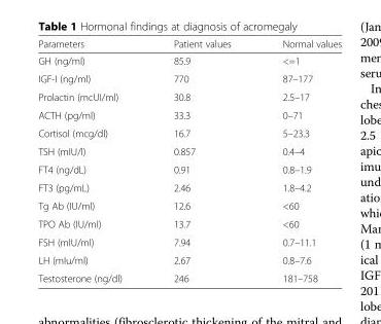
<table><thead><tr><td>Parameters</td><td>Patient values</td><td>Normal values</td></tr></thead><tbody><tr><td>GH (ng/ml)</td><td>85.9</td><td>&lt;=1</td></tr><tr><td>IGF-I (ng/ml)</td><td>770</td><td>87–177</td></tr><tr><td>Prolactin (mcUI/ml)</td><td>30.8</td><td>2.5–17</td></tr><tr><td>ACTH (pg/ml)</td><td>33.3</td><td>0–71</td></tr><tr><td>Cortisol (mcg/dl)</td><td>16.7</td><td>5–23.3</td></tr><tr><td>TSH (mIU/l)</td><td>0.857</td><td>0.4–4</td></tr><tr><td>FT4 (ng/dL)</td><td>0.91</td><td>0.8–1.9</td></tr><tr><td>FT3 (pg/mL)</td><td>2.46</td><td>1.8–4.2</td></tr><tr><td>Tg Ab (IU/ml)</td><td>12.6</td><td>&lt;60</td></tr><tr><td>TPO Ab (IU/ml)</td><td>13.7</td><td>&lt;60</td></tr><tr><td>FSH (mIU/ml)</td><td>7.94</td><td>0.7–11.1</td></tr><tr><td>LH (mIu/ml)</td><td>2.67</td><td>0.8–7.6</td></tr><tr><td>Testosterone (ng/dl)</td><td>246</td><td>181–758</td></tr></tbody></table>